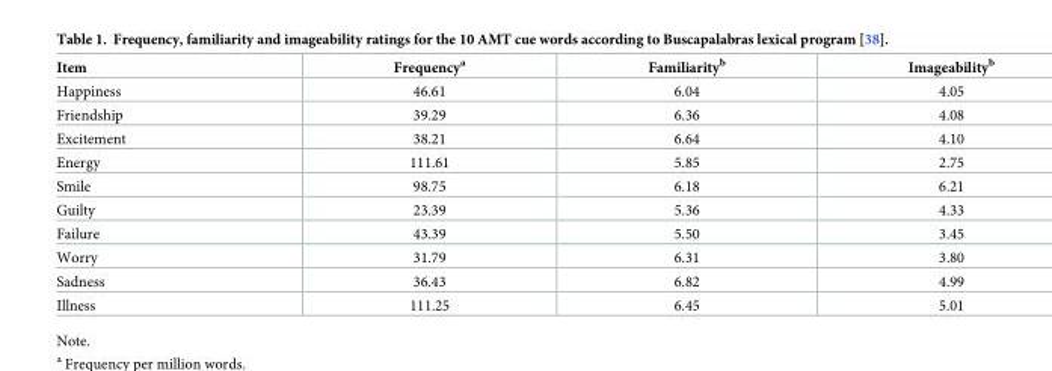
<table><thead><tr><td>Item</td><td>Frequency<sup>a</sup></td><td>Familiarity<sup>b</sup></td><td>Imageability<sup>b</sup></td></tr></thead><tbody><tr><td>Happiness</td><td>46.61</td><td>6.04</td><td>4.05</td></tr><tr><td>Friendship</td><td>39.29</td><td>6.36</td><td>4.08</td></tr><tr><td>Excitement</td><td>38.21</td><td>6.64</td><td>4.10</td></tr><tr><td>Energy</td><td>111.61</td><td>5.85</td><td>2.75</td></tr><tr><td>Smile</td><td>98.75</td><td>6.18</td><td>6.21</td></tr><tr><td>Guilty</td><td>23.39</td><td>5.36</td><td>4.33</td></tr><tr><td>Failure</td><td>43.39</td><td>5.50</td><td>3.45</td></tr><tr><td>Worry</td><td>31.79</td><td>6.31</td><td>3.80</td></tr><tr><td>Sadness</td><td>36.43</td><td>6.82</td><td>4.99</td></tr><tr><td>Illness</td><td>111.25</td><td>6.45</td><td>5.01</td></tr></tbody></table>